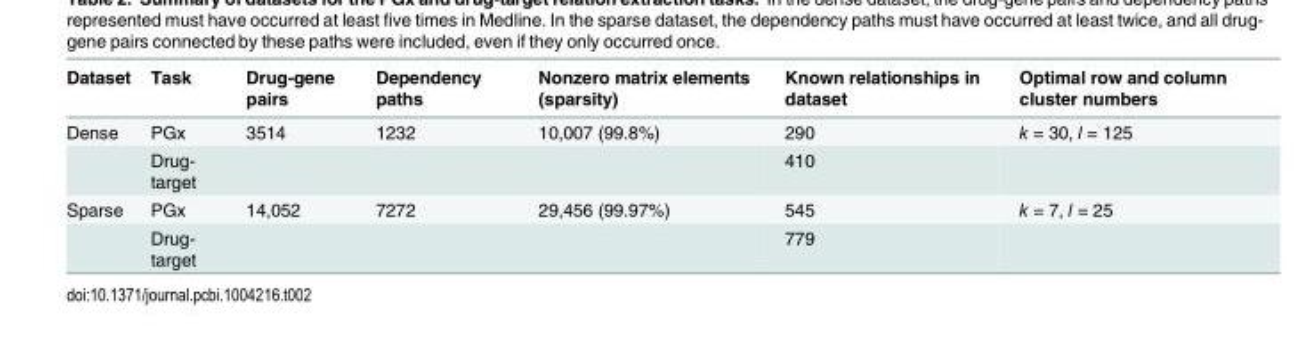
<table><thead><tr><td>Dataset</td><td>Task</td><td>Drug-gene pairs</td><td>Dependency paths</td><td>Nonzero matrix elements (sparsity)</td><td>Known relationships in dataset</td><td>Optimal row and column cluster numbers</td></tr></thead><tbody><tr><td rowspan="2">Dense</td><td>PGx</td><td>3514</td><td>1232</td><td>10,007 (99.8%)</td><td>290</td><td>k = 30, l = 125</td></tr><tr><td>Drug- target</td><td></td><td></td><td></td><td>410</td><td></td></tr><tr><td rowspan="2">Sparse</td><td>PGx</td><td>14,052</td><td>7272</td><td>29,456 (99.97%)</td><td>545</td><td>k = 7, l = 25</td></tr><tr><td>Drug- target</td><td></td><td></td><td></td><td>779</td><td></td></tr></tbody></table>